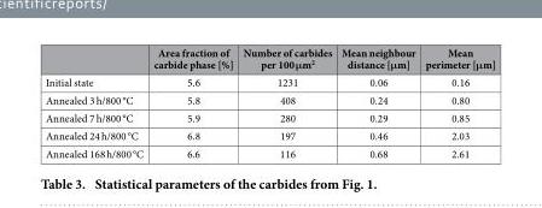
<table><thead><tr><td></td><td>Area fraction of carbide phase [%]</td><td>Number of carbides per 100 μm<sup>2</sup></td><td>Mean neighbour distance [μm]</td><td>Mean perimeter [μm]</td></tr></thead><tbody><tr><td>Initial state</td><td>5.6</td><td>1231</td><td>0.06</td><td>0.16</td></tr><tr><td>Annealed 3 h/800 °C</td><td>5.8</td><td>408</td><td>0.24</td><td>0.80</td></tr><tr><td>Annealed 7 h/800 °C</td><td>5.9</td><td>280</td><td>0.29</td><td>0.85</td></tr><tr><td>Annealed 24 h/800 °C</td><td>6.8</td><td>197</td><td>0.46</td><td>2.03</td></tr><tr><td>Annealed 168 h/800 °C</td><td>6.6</td><td>116</td><td>0.68</td><td>2.61</td></tr></tbody></table>